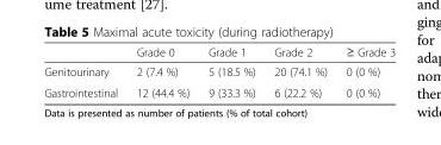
<table><thead><tr><td></td><td>Grade 0</td><td>Grade 1</td><td>Grade 2</td><td>≥ Grade 3</td></tr></thead><tbody><tr><td>Genitourinary</td><td>2 (7.4 %)</td><td>5 (18.5 %)</td><td>20 (74.1 %)</td><td>0 (0 %)</td></tr><tr><td>Gastrointestinal</td><td>12 (44.4 %)</td><td>9 (33.3 %)</td><td>6 (22.2 %)</td><td>0 (0 %)</td></tr></tbody></table>